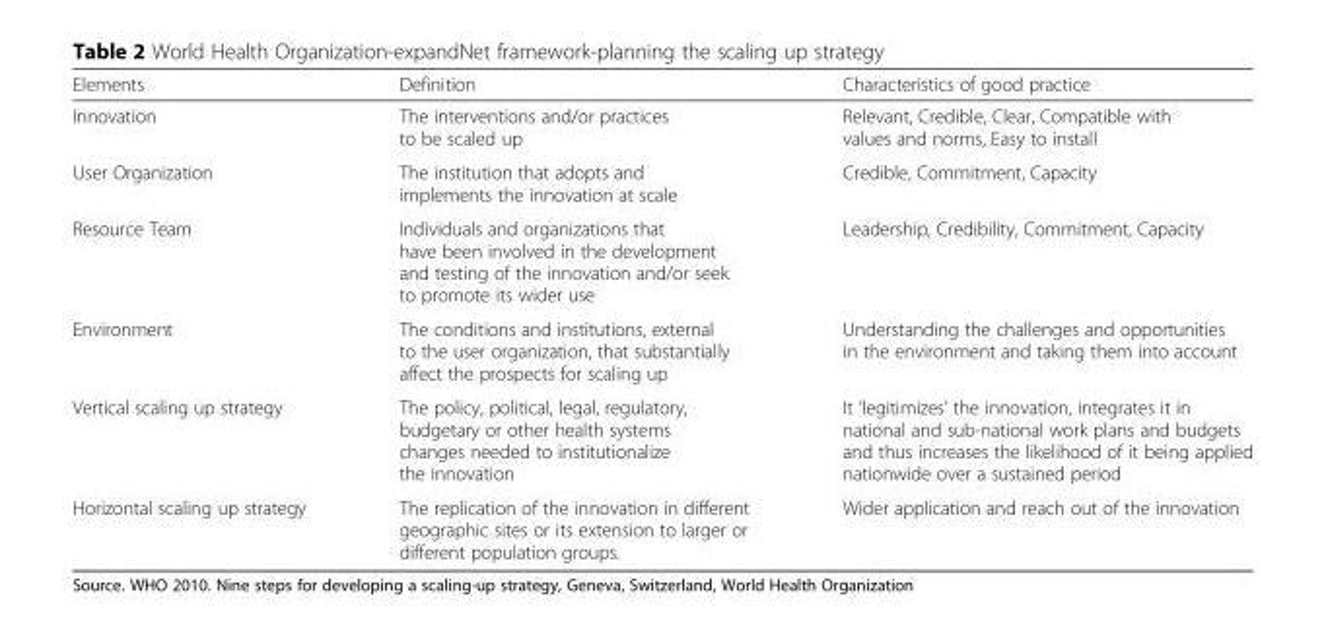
<table><thead><tr><td>Elements</td><td>Definition</td><td>Characteristics of good practice</td></tr></thead><tbody><tr><td>Innovation</td><td>The interventions and/or practices to be scaled up</td><td>Relevant, Credible, Clear, Compatible with values and norms, Easy to install</td></tr><tr><td>User Organization</td><td>The institution that adopts and implements the innovation at scale</td><td>Credible, Commitment, Capacity</td></tr><tr><td>Resource Team</td><td>Individuals and organizations that have been involved in the development and testing of the innovation and/or seek to promote its wider use</td><td>Leadership, Credibility, Commitment, Capacity</td></tr><tr><td>Environment</td><td>The conditions and institutions, external to the user organization, that substantially affect the prospects for scaling up</td><td>Understanding the challenges and opportunities in the environment and taking them into account</td></tr><tr><td>Vertical scaling up strategy</td><td>The policy, political, legal, regulatory, budgetary or other health systems changes needed to institutionalize the innovation</td><td>It ‘legitimizes’ the innovation, integrates it in national and sub-national work plans and budgets and thus increases the likelihood of it being applied nationwide over a sustained period</td></tr><tr><td>Horizontal scaling up strategy</td><td>The replication of the innovation in different geographic sites or its extension to larger or different population groups.</td><td>Wider application and reach out of the innovation</td></tr></tbody></table>